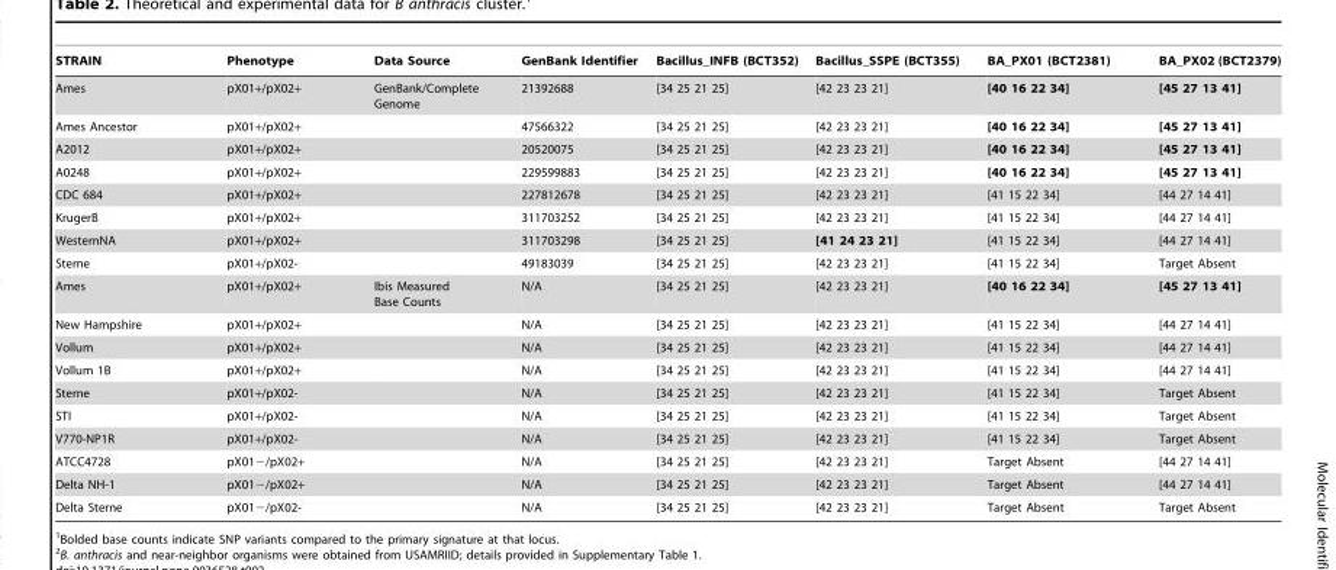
<table><thead><tr><td>STRAIN</td><td>Phenotype</td><td>Data Source</td><td>GenBank Identifier</td><td>Bacillus_INFB (BCT352)</td><td>Bacillus_SSPE (BCT355)</td><td>BA_PX01 (BCT2381)</td><td>BA_PX02 (BCT2379)</td></tr></thead><tbody><tr><td>Ames</td><td>pX01+/pX02+</td><td>GenBank/Complete Genome</td><td>21392688</td><td>[34 25 21 25]</td><td>[42 23 23 21]</td><td>[40 16 22 34]</td><td>[45 27 13 41]</td></tr><tr><td>Ames Ancestor</td><td>pX01+/pX02+</td><td></td><td>47566322</td><td>[34 25 21 25]</td><td>[42 23 23 21]</td><td>[40 16 22 34]</td><td>[45 27 13 41]</td></tr><tr><td>A2012</td><td>pX01+/pX02+</td><td></td><td>20520075</td><td>[34 25 21 25]</td><td>[42 23 23 21]</td><td>[40 16 22 34]</td><td>[45 27 13 41]</td></tr><tr><td>A0248</td><td>pX01+/pX02+</td><td></td><td>229599883</td><td>[34 25 21 25]</td><td>[42 23 23 21]</td><td>[40 16 22 34]</td><td>[45 27 13 41]</td></tr><tr><td>CDC 684</td><td>pX01+/pX02+</td><td></td><td>227812678</td><td>[34 25 21 25]</td><td>[42 23 23 21]</td><td>[41 15 22 34]</td><td>[44 27 14 41]</td></tr><tr><td>KrugerB</td><td>pX01+/pX02+</td><td></td><td>311703252</td><td>[34 25 21 25]</td><td>[42 23 23 21]</td><td>[41 15 22 34]</td><td>[44 27 14 41]</td></tr><tr><td>WesternNA</td><td>pX01+/pX02+</td><td></td><td>311703298</td><td>[34 25 21 25]</td><td>[41 24 23 21]</td><td>[41 15 22 34]</td><td>[44 27 14 41]</td></tr><tr><td>Sterne</td><td>pX01+/pX02-</td><td></td><td>49183039</td><td>[34 25 21 25]</td><td>[42 23 23 21]</td><td>[41 15 22 34]</td><td>Target Absent</td></tr><tr><td>Ames</td><td>pX01+/pX02+</td><td>Ibis Measured Base Counts</td><td>N/A</td><td>[34 25 21 25]</td><td>[42 23 23 21]</td><td>[40 16 22 34]</td><td>[45 27 13 41]</td></tr><tr><td>New Hampshire</td><td>pX01+/pX02+</td><td></td><td>N/A</td><td>[34 25 21 25]</td><td>[42 23 23 21]</td><td>[41 15 22 34]</td><td>[44 27 14 41]</td></tr><tr><td>Vollum</td><td>pX01+/pX02+</td><td></td><td>N/A</td><td>[34 25 21 25]</td><td>[42 23 23 21]</td><td>[41 15 22 34]</td><td>[44 27 14 41]</td></tr><tr><td>Vollum 1B</td><td>pX01+/pX02+</td><td></td><td>N/A</td><td>[34 25 21 25]</td><td>[42 23 23 21]</td><td>[41 15 22 34]</td><td>[44 27 14 41]</td></tr><tr><td>Sterne</td><td>pX01+/pX02-</td><td></td><td>N/A</td><td>[34 25 21 25]</td><td>[42 23 23 21]</td><td>[41 15 22 34]</td><td>Target Absent</td></tr><tr><td>STI</td><td>pX01+/pX02-</td><td></td><td>N/A</td><td>[34 25 21 25]</td><td>[42 23 23 21]</td><td>[41 15 22 34]</td><td>Target Absent</td></tr><tr><td>V770-NP1R</td><td>pX01+/pX02-</td><td></td><td>N/A</td><td>[34 25 21 25]</td><td>[42 23 23 21]</td><td>[41 15 22 34]</td><td>Target Absent</td></tr><tr><td>ATCC4728</td><td>pX01−/pX02+</td><td></td><td>N/A</td><td>[34 25 21 25]</td><td>[42 23 23 21]</td><td>Target Absent</td><td>[44 27 14 41]</td></tr><tr><td>Delta NH-1</td><td>pX01−/pX02+</td><td></td><td>N/A</td><td>[34 25 21 25]</td><td>[42 23 23 21]</td><td>Target Absent</td><td>[44 27 14 41]</td></tr><tr><td>Delta Sterne</td><td>pX01−/pX02-</td><td></td><td>N/A</td><td>[34 25 21 25]</td><td>[42 23 23 21]</td><td>Target Absent</td><td>Target Absent</td></tr></tbody></table>